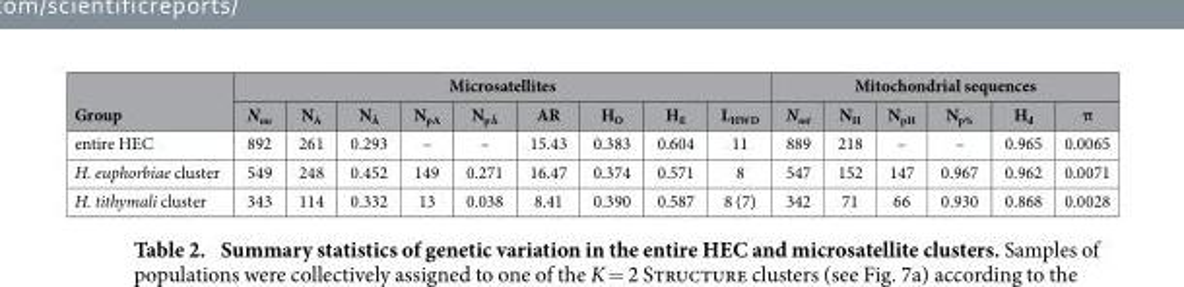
<table><thead><tr><td rowspan="2">Group</td><td colspan="9">Microsatellites</td><td colspan="6">Mitochondrial sequences</td></tr><tr><td>N<sub>nu</sub></td><td>N<sub>A</sub></td><td>N<sub>Ā</sub></td><td>N<sub>pA</sub></td><td>N<sub>pĀ</sub></td><td>AR</td><td>H<sub>O</sub></td><td>H<sub>E</sub></td><td>L<sub>HWD</sub></td><td>N<sub>mt</sub></td><td>N<sub>H</sub></td><td>N<sub>pH</sub></td><td>N<sub>p%</sub></td><td>H<sub>d</sub></td><td>π</td></tr></thead><tbody><tr><td>entire HEC</td><td>892</td><td>261</td><td>0.293</td><td>–</td><td>–</td><td>15.43</td><td>0.383</td><td>0.604</td><td>11</td><td>889</td><td>218</td><td>–</td><td>–</td><td>0.965</td><td>0.0065</td></tr><tr><td>H. euphorbiae cluster</td><td>549</td><td>248</td><td>0.452</td><td>149</td><td>0.271</td><td>16.47</td><td>0.374</td><td>0.571</td><td>8</td><td>547</td><td>152</td><td>147</td><td>0.967</td><td>0.962</td><td>0.0071</td></tr><tr><td>H. tithymali cluster</td><td>343</td><td>114</td><td>0.332</td><td>13</td><td>0.038</td><td>8.41</td><td>0.390</td><td>0.587</td><td>8 (7)</td><td>342</td><td>71</td><td>66</td><td>0.930</td><td>0.868</td><td>0.0028</td></tr></tbody></table>